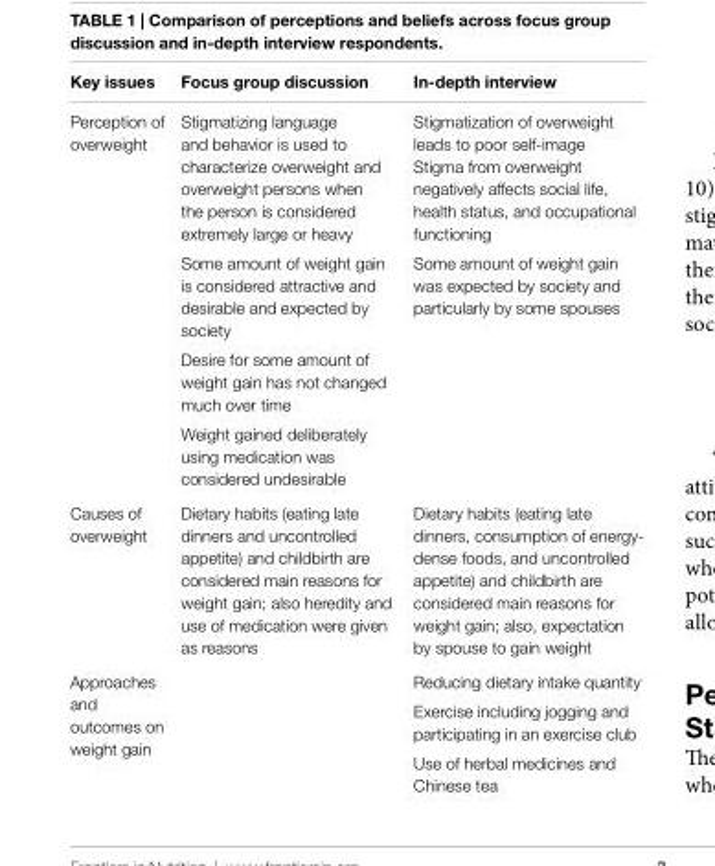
<table><thead><tr><td>Key issues</td><td>Focus group discussion</td><td>in-depth interview</td></tr></thead><tbody><tr><td rowspan="5">Perception of overweight</td><td rowspan="2">Stigmatizing language and behavior is used to characterize overweight and overweight persons when the person is considered extremely large or heavy</td><td>Stigmatization of overweight leads to poor self-image</td></tr><tr><td>Stigma from overweight negatively affects social life, health status, and occupational functioning</td></tr><tr><td>Some amount of weight gain is considered attractive and desirable and expected by society</td><td rowspan="3">Some amount of weight gain was expected by society and particularly by some spouses</td></tr><tr><td>Desire for some amount of weight gain has not changed much over time</td></tr><tr><td>Weight gained deliberately using medication was considered undesirable</td></tr><tr><td>Causes of overweight</td><td>Dietary habits (eating late dinners and uncontrolled appetite) and childbirth are considered main reasons for weight gain; also heredity and use of medication were given as reasons</td><td>Dietary habits (eating late dinners, consumption of energy- dense foods, and uncontrolled appetite) and childbirth are considered main reasons for weight gain; also, expectation by spouse to gain weight</td></tr><tr><td rowspan="3">Approaches and outcomes on weight gain</td><td rowspan="3"></td><td>Reducing dietary intake quantity</td></tr><tr><td>Exercise including jogging and participating in an exercise club</td></tr><tr><td>Use of herbal medicines and Chinese tea</td></tr></tbody></table>